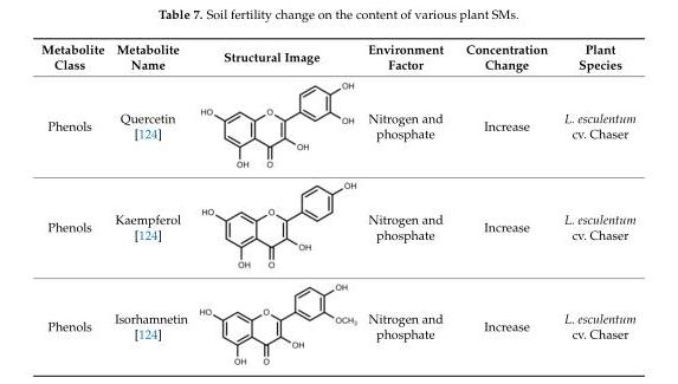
<table><thead><tr><td>Metabolite Class</td><td>Metabolite Name</td><td>Structural Image</td><td>Environment Factor</td><td>Concentration Change</td><td>Plant Species</td></tr></thead><tbody><tr><td>Phenols</td><td>Quercetin [124]</td><td></td><td>Nitrogen and phosphate</td><td>Increase</td><td>L. esculentum cv. Chaser</td></tr><tr><td>Phenols</td><td>Kaempferol [124]</td><td></td><td>Nitrogen and phosphate</td><td>Increase</td><td>L. esculentum cv. Chaser</td></tr><tr><td>Phenols</td><td>Isorhamnetin [124]</td><td></td><td>Nitrogen and phosphate</td><td>Increase</td><td>L. esculentum cv. Chaser</td></tr></tbody></table>